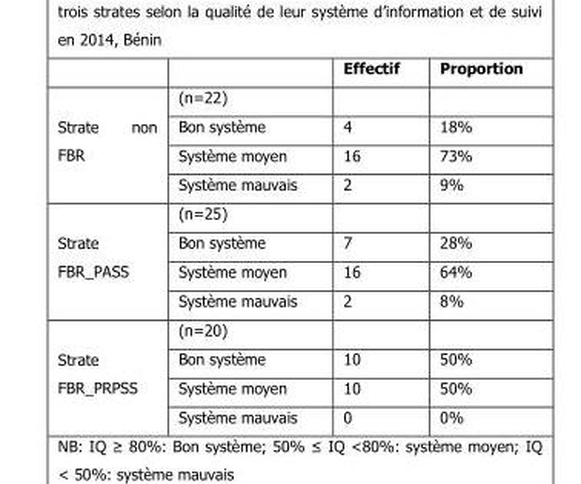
<table><thead><tr><td></td><td></td><td>Effectif</td><td>Proportion</td></tr></thead><tbody><tr><td rowspan="4">Strate non FBR</td><td>(n=22)</td><td></td><td></td></tr><tr><td>Bon système</td><td>4</td><td>18%</td></tr><tr><td>Système moyen</td><td>16</td><td>73%</td></tr><tr><td>Système mauvais</td><td>2</td><td>9%</td></tr><tr><td rowspan="4">Strate FBR_PASS</td><td>(n=25)</td><td></td><td></td></tr><tr><td>Bon système</td><td>7</td><td>28%</td></tr><tr><td>Système moyen</td><td>16</td><td>64%</td></tr><tr><td>Système mauvais</td><td>2</td><td>8%</td></tr><tr><td rowspan="4">Strate FBR_PRPSS</td><td>(n=20)</td><td></td><td></td></tr><tr><td>Bon système</td><td>10</td><td>50%</td></tr><tr><td>Système moyen</td><td>10</td><td>50%</td></tr><tr><td>Système mauvais</td><td>0</td><td>0%</td></tr></tbody></table>